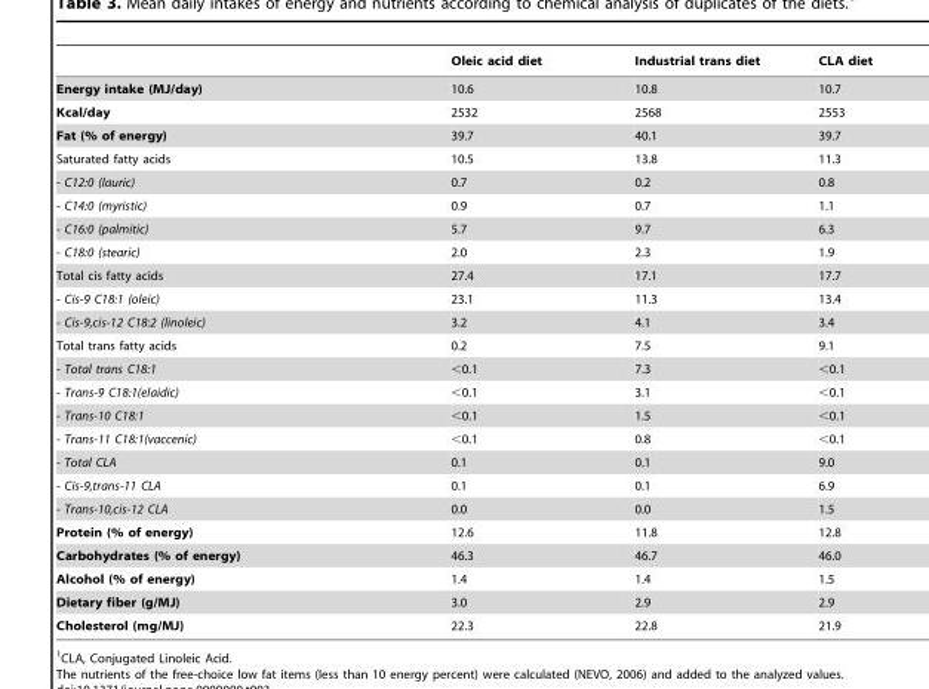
<table><thead><tr><td></td><td>Oleic acid diet</td><td>Industrial trans diet</td><td>CLA diet</td></tr></thead><tbody><tr><td>Energy intake (MJ/day)</td><td>10.6</td><td>10.8</td><td>10.7</td></tr><tr><td>Kcal/day</td><td>2532</td><td>2568</td><td>2553</td></tr><tr><td>Fat (% of energy)</td><td>39.7</td><td>40.1</td><td>39.7</td></tr><tr><td>Saturated fatty acids</td><td>10.5</td><td>13.8</td><td>11.3</td></tr><tr><td>- C12:0 (lauric)</td><td>0.7</td><td>0.2</td><td>0.8</td></tr><tr><td>- C14:0 (myristic)</td><td>0.9</td><td>0.7</td><td>1.1</td></tr><tr><td>- C16:0 (palmitic)</td><td>5.7</td><td>9.7</td><td>6.3</td></tr><tr><td>- C18:0 (stearic)</td><td>2.0</td><td>2.3</td><td>1.9</td></tr><tr><td>Total cis fatty acids</td><td>27.4</td><td>17.1</td><td>17.7</td></tr><tr><td>- Cis-9 C18:1 (oleic)</td><td>23.1</td><td>11.3</td><td>13.4</td></tr><tr><td>- Cis-9,cis-12 C18:2 (linoleic)</td><td>3.2</td><td>4.1</td><td>3.4</td></tr><tr><td>Total trans fatty acids</td><td>0.2</td><td>7.5</td><td>9.1</td></tr><tr><td>- Total trans C18:1</td><td>&lt;0.1</td><td>7.3</td><td>&lt;0.1</td></tr><tr><td>- Trans-9 C18:1(elaidic)</td><td>&lt;0.1</td><td>3.1</td><td>&lt;0.1</td></tr><tr><td>- Trans-10 C18:1</td><td>&lt;0.1</td><td>1.5</td><td>&lt;0.1</td></tr><tr><td>- Trans-11 C18:1(vaccenic)</td><td>&lt;0.1</td><td>0.8</td><td>&lt;0.1</td></tr><tr><td>- Total CLA</td><td>0.1</td><td>0.1</td><td>9.0</td></tr><tr><td>- Cis-9,trans-11 CLA</td><td>0.1</td><td>0.1</td><td>6.9</td></tr><tr><td>- Trans-10,cis-12 CLA</td><td>0.0</td><td>0.0</td><td>1.5</td></tr><tr><td>Protein (% of energy)</td><td>12.6</td><td>11.8</td><td>12.8</td></tr><tr><td>Carbohydrates (% of energy)</td><td>46.3</td><td>46.7</td><td>46.0</td></tr><tr><td>Alcohol (% of energy)</td><td>1.4</td><td>1.4</td><td>1.5</td></tr><tr><td>Dietary fiber (g/MJ)</td><td>3.0</td><td>2.9</td><td>2.9</td></tr><tr><td>Cholesterol (mg/MJ)</td><td>22.3</td><td>22.8</td><td>21.9</td></tr></tbody></table>